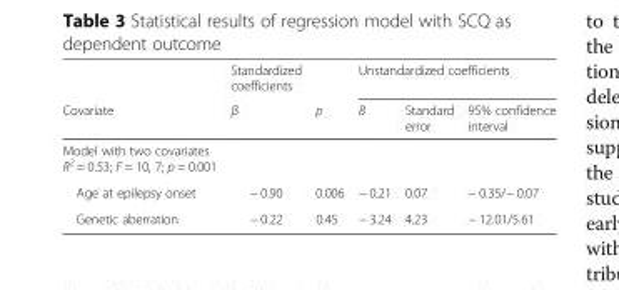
<table><thead><tr><td rowspan="2">Covariate</td><td rowspan="2">Standardized coefficients β</td><td rowspan="2">p</td><td colspan="3">Unstandardized coefficients</td></tr><tr><td>B</td><td>Standard error</td><td>95% confidence interval</td></tr></thead><tbody><tr><td colspan="6">Model with two covariates R<sup>2</sup> = 0.53; F = 10, 7; p = 0.001</td></tr><tr><td>Age at epilepsy onset</td><td>− 0.90</td><td>0.006</td><td>− 0.21</td><td>0.07</td><td>− 0.35/− 0.07</td></tr><tr><td>Genetic aberration</td><td>− 0.22</td><td>0.45</td><td>− 3.24</td><td>4.23</td><td>− 12.01/5.61</td></tr></tbody></table>